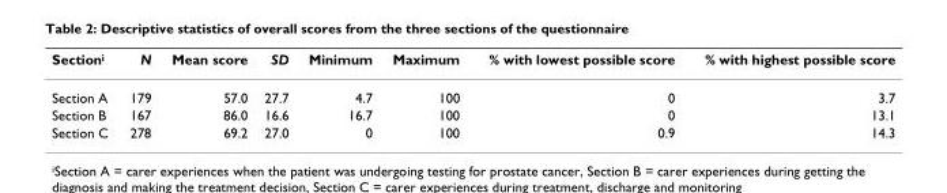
<table><thead><tr><td>Section<sup>i</sup></td><td>N</td><td>Mean score</td><td>SD</td><td>Minimum</td><td>Maximum</td><td>% with lowest possible score</td><td>% with highest possible score</td></tr></thead><tbody><tr><td>Section A</td><td>179</td><td>57.0</td><td>27.7</td><td>4.7</td><td>100</td><td>0</td><td>3.7</td></tr><tr><td>Section B</td><td>167</td><td>86.0</td><td>16.6</td><td>16.7</td><td>100</td><td>0</td><td>13.1</td></tr><tr><td>Section C</td><td>278</td><td>69.2</td><td>27.0</td><td>0</td><td>100</td><td>0.9</td><td>14.3</td></tr></tbody></table>